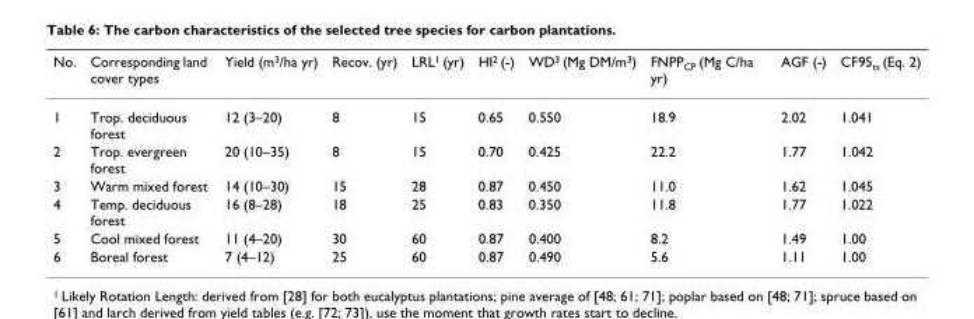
<table><thead><tr><td>No.</td><td>Corresponding land cover types</td><td>Yield (m<sup>3</sup>/ha yr)</td><td>Recov. (yr)</td><td>LRL<sup>1</sup> (yr)</td><td>HI<sup>2</sup> (-)</td><td>WD<sup>3</sup> (Mg DM/m<sup>3</sup>)</td><td>FNPP<sub>CP</sub> (Mg C/ha yr)</td><td>AGF (-)</td><td>CF95<sub>ts</sub> (Eq. 2)</td></tr></thead><tbody><tr><td>1</td><td>Trop. deciduous forest</td><td>12 (3–20)</td><td>8</td><td>15</td><td>0.65</td><td>0.550</td><td>18.9</td><td>2.02</td><td>1.041</td></tr><tr><td>2</td><td>Trop. evergreen forest</td><td>20 (10–35)</td><td>8</td><td>15</td><td>0.70</td><td>0.425</td><td>22.2</td><td>1.77</td><td>1.042</td></tr><tr><td>3</td><td>Warm mixed forest</td><td>14 (10–30)</td><td>15</td><td>28</td><td>0.87</td><td>0.450</td><td>11.0</td><td>1.62</td><td>1.045</td></tr><tr><td>4</td><td>Temp. deciduous forest</td><td>16 (8–28)</td><td>18</td><td>25</td><td>0.83</td><td>0.350</td><td>11.8</td><td>1.77</td><td>1.022</td></tr><tr><td>5</td><td>Cool mixed forest</td><td>11 (4–20)</td><td>30</td><td>60</td><td>0.87</td><td>0.400</td><td>8.2</td><td>1.49</td><td>1.00</td></tr><tr><td>6</td><td>Boreal forest</td><td>7 (4–12)</td><td>25</td><td>60</td><td>0.87</td><td>0.490</td><td>5.6</td><td>1.11</td><td>1.00</td></tr></tbody></table>